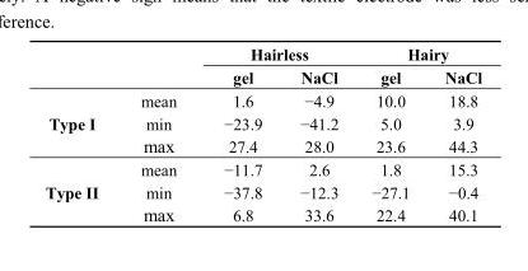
<table><thead><tr><td rowspan="2"></td><td rowspan="2"></td><td colspan="2">Hairless</td><td colspan="2">Hairy</td></tr><tr><td>gel</td><td>NaCl</td><td>gel</td><td>NaCl</td></tr></thead><tbody><tr><td rowspan="3">Type I</td><td>mean</td><td>1.6</td><td>−4.9</td><td>10.0</td><td>18.8</td></tr><tr><td>min</td><td>−23.9</td><td>−41.2</td><td>5.0</td><td>3.9</td></tr><tr><td>max</td><td>27.4</td><td>28.0</td><td>23.6</td><td>44.3</td></tr><tr><td rowspan="3">Type II</td><td>mean</td><td>−11.7</td><td>2.6</td><td>1.8</td><td>15.3</td></tr><tr><td>min</td><td>−37.8</td><td>−12.3</td><td>−27.1</td><td>−0.4</td></tr><tr><td>max</td><td>6.8</td><td>33.6</td><td>22.4</td><td>40.1</td></tr></tbody></table>